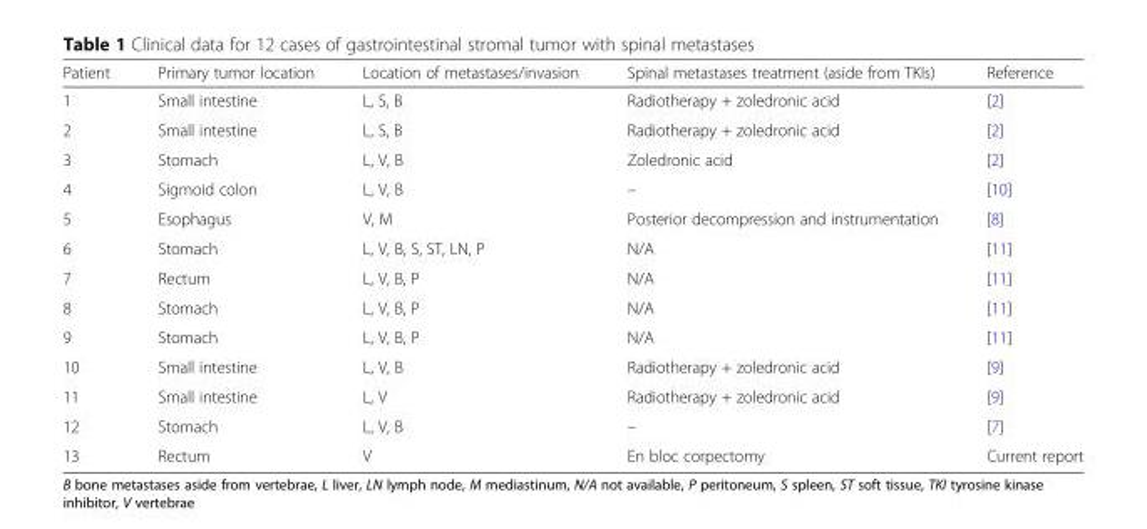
<table><thead><tr><td>Patient</td><td>Primary tumor location</td><td>Location of metastases/invasion</td><td>Spinal metastases treatment (aside from TKIs)</td><td>Reference</td></tr></thead><tbody><tr><td>1</td><td>Small intestine</td><td>L, S, B</td><td>Radiotherapy + zoledronic acid</td><td>[2]</td></tr><tr><td>2</td><td>Small intestine</td><td>L, S, B</td><td>Radiotherapy + zoledronic acid</td><td>[2]</td></tr><tr><td>3</td><td>Stomach</td><td>L, V, B</td><td>Zoledronic acid</td><td>[2]</td></tr><tr><td>4</td><td>Sigmoid colon</td><td>L, V, B</td><td>–</td><td>[10]</td></tr><tr><td>5</td><td>Esophagus</td><td>V, M</td><td>Posterior decompression and instrumentation</td><td>[8]</td></tr><tr><td>6</td><td>Stomach</td><td>L, V, B, S, ST, LN, P</td><td>N/A</td><td>[11]</td></tr><tr><td>7</td><td>Rectum</td><td>L, V, B, P</td><td>N/A</td><td>[11]</td></tr><tr><td>8</td><td>Stomach</td><td>L, V, B, P</td><td>N/A</td><td>[11]</td></tr><tr><td>9</td><td>Stomach</td><td>L, V, B, P</td><td>N/A</td><td>[11]</td></tr><tr><td>10</td><td>Small intestine</td><td>L, V, B</td><td>Radiotherapy + zoledronic acid</td><td>[9]</td></tr><tr><td>11</td><td>Small intestine</td><td>L, V</td><td>Radiotherapy + zoledronic acid</td><td>[9]</td></tr><tr><td>12</td><td>Stomach</td><td>L, V, B</td><td>–</td><td>[7]</td></tr><tr><td>13</td><td>Rectum</td><td>V</td><td>En bloc corpectomy</td><td>Current report</td></tr></tbody></table>